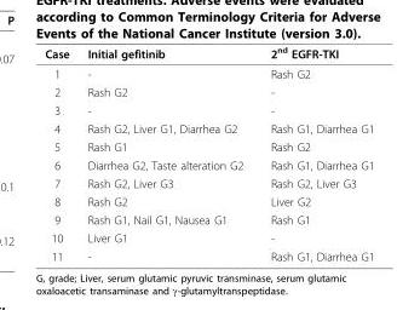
<table><thead><tr><td>Case</td><td>Initial gefitinib</td><td>2<sup>nd</sup> EGFR-TKI</td></tr></thead><tbody><tr><td>1</td><td>-</td><td>Rash G2</td></tr><tr><td>2</td><td>Rash G2</td><td>-</td></tr><tr><td>3</td><td>-</td><td>-</td></tr><tr><td>4</td><td>Rash G2, Liver G1, Diarrhea G2</td><td>Rash G1, Diarrhea G1</td></tr><tr><td>5</td><td>Rash G1</td><td>Rash G2</td></tr><tr><td>6</td><td>Diarrhea G2, Taste alteration G2</td><td>Rash G1, Diarrhea G1</td></tr><tr><td>7</td><td>Rash G2, Liver G3</td><td>Rash G2, Liver G3</td></tr><tr><td>8</td><td>Rash G2</td><td>Liver G2</td></tr><tr><td>9</td><td>Rash G1, Nail G1, Nausea G1</td><td>Rash G1</td></tr><tr><td>10</td><td>Liver G1</td><td>-</td></tr><tr><td>11</td><td>-</td><td>Rash G1, Diarrhea G1</td></tr></tbody></table>